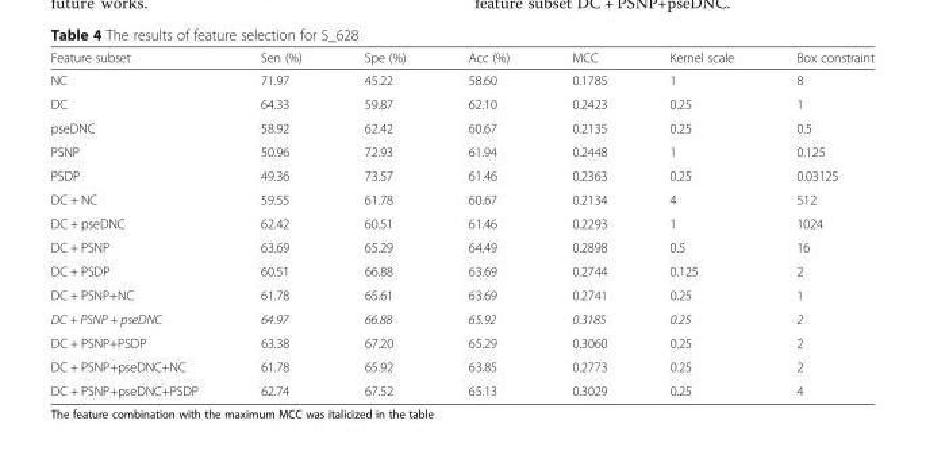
<table><thead><tr><td>Feature subset</td><td>Sen (%)</td><td>Spe (%)</td><td>Acc (%)</td><td>MCC</td><td>Kernel scale</td><td>Box constraint</td></tr></thead><tbody><tr><td>NC</td><td>71.97</td><td>45.22</td><td>58.60</td><td>0.1785</td><td>1</td><td>8</td></tr><tr><td>DC</td><td>64.33</td><td>59.87</td><td>62.10</td><td>0.2423</td><td>0.25</td><td>1</td></tr><tr><td>pseDNC</td><td>58.92</td><td>62.42</td><td>60.67</td><td>0.2135</td><td>0.25</td><td>0.5</td></tr><tr><td>PSNP</td><td>50.96</td><td>72.93</td><td>61.94</td><td>0.2448</td><td>1</td><td>0.125</td></tr><tr><td>PSDP</td><td>49.36</td><td>73.57</td><td>61.46</td><td>0.2363</td><td>0.25</td><td>0.03125</td></tr><tr><td>DC + NC</td><td>59.55</td><td>61.78</td><td>60.67</td><td>0.2134</td><td>4</td><td>512</td></tr><tr><td>DC + pseDNC</td><td>62.42</td><td>60.51</td><td>61.46</td><td>0.2293</td><td>1</td><td>1024</td></tr><tr><td>DC + PSNP</td><td>63.69</td><td>65.29</td><td>64.49</td><td>0.2898</td><td>0.5</td><td>16</td></tr><tr><td>DC + PSDP</td><td>60.51</td><td>66.88</td><td>63.69</td><td>0.2744</td><td>0.125</td><td>2</td></tr><tr><td>DC + PSNP+NC</td><td>61.78</td><td>65.61</td><td>63.69</td><td>0.2741</td><td>0.25</td><td>1</td></tr><tr><td>DC + PSNP + pseDNC</td><td>64.97</td><td>66.88</td><td>65.92</td><td>0.3185</td><td>0.25</td><td>2</td></tr><tr><td>DC + PSNP+PSDP</td><td>63.38</td><td>67.20</td><td>65.29</td><td>0.3060</td><td>0.25</td><td>2</td></tr><tr><td>DC + PSNP+pseDNC+NC</td><td>61.78</td><td>65.92</td><td>63.85</td><td>0.2773</td><td>0.25</td><td>2</td></tr><tr><td>DC + PSNP+pseDNC+PSDP</td><td>62.74</td><td>67.52</td><td>65.13</td><td>0.3029</td><td>0.25</td><td>4</td></tr></tbody></table>